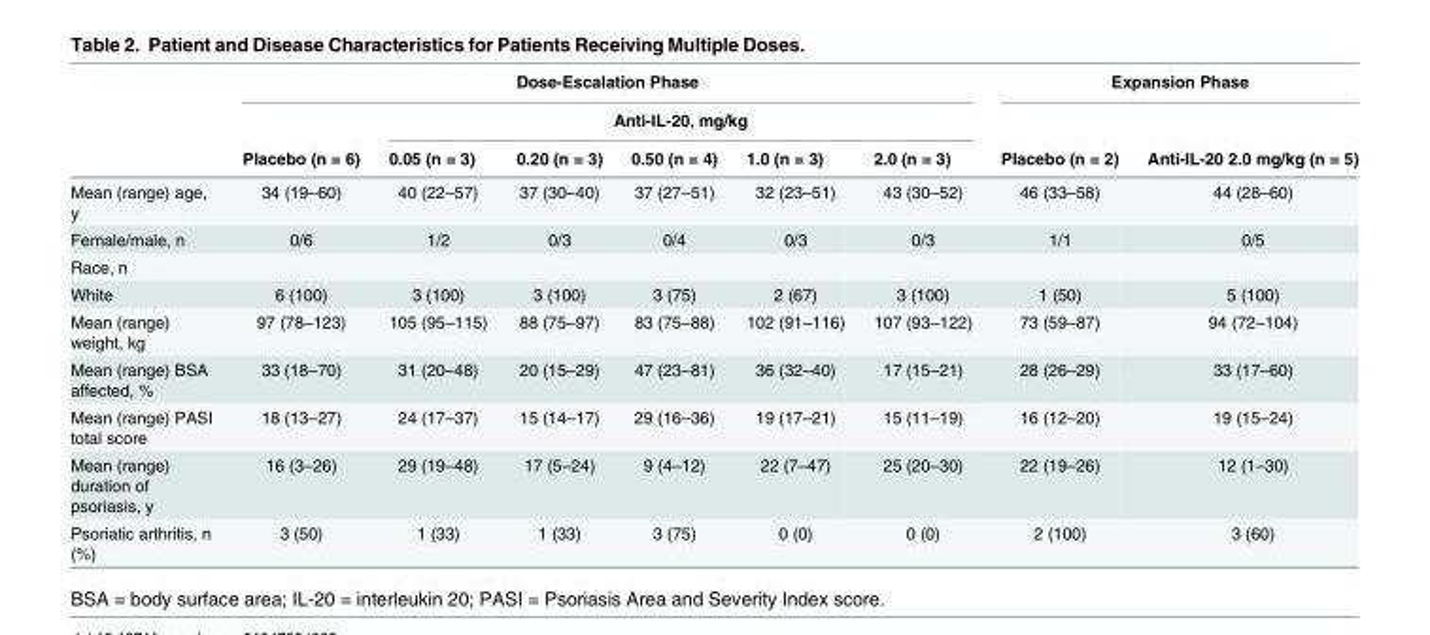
<table><thead><tr><td rowspan="3"></td><td colspan="6">Dose-Escalation Phase</td><td colspan="2">Expansion Phase</td></tr><tr><td rowspan="2">Placebo (n = 6)</td><td colspan="5">Anti-IL-20, mg/kg</td><td rowspan="2">Placebo (n = 2)</td><td rowspan="2">Anti-IL-20 2.0 mg/kg (n = 5)</td></tr><tr><td>0.05 (n = 3)</td><td>0.20 (n = 3)</td><td>0.50 (n = 4)</td><td>1.0 (n = 3)</td><td>2.0 (n = 3)</td></tr></thead><tbody><tr><td>Mean (range) age, y</td><td>34 (19–60)</td><td>40 (22–57)</td><td>37 (30–40)</td><td>37 (27–51)</td><td>32 (23–51)</td><td>43 (30–52)</td><td>46 (33–58)</td><td>44 (28–60)</td></tr><tr><td>Female/male, n</td><td>0/6</td><td>1/2</td><td>0/3</td><td>0/4</td><td>0/3</td><td>0/3</td><td>1/1</td><td>0/5</td></tr><tr><td colspan="9">Race, n</td></tr><tr><td>White</td><td>6 (100)</td><td>3 (100)</td><td>3 (100)</td><td>3 (75)</td><td>2 (67)</td><td>3 (100)</td><td>1 (50)</td><td>5 (100)</td></tr><tr><td>Mean (range) weight, kg</td><td>97 (78–123)</td><td>105 (95–115)</td><td>88 (75–97)</td><td>83 (75–88)</td><td>102 (91–116)</td><td>107 (93–122)</td><td>73 (59–87)</td><td>94 (72–104)</td></tr><tr><td>Mean (range) BSA affected, %</td><td>33 (18–70)</td><td>31 (20–48)</td><td>20 (15–29)</td><td>47 (23–81)</td><td>36 (32–40)</td><td>17 (15–21)</td><td>28 (26–29)</td><td>33 (17–60)</td></tr><tr><td>Mean (range) PASI total score</td><td>18 (13–27)</td><td>24 (17–37)</td><td>15 (14–17)</td><td>29 (16–36)</td><td>19 (17–21)</td><td>15 (11–19)</td><td>16 (12–20)</td><td>19 (15–24)</td></tr><tr><td>Mean (range) duration of psoriasis, y</td><td>16 (3–26)</td><td>29 (19–48)</td><td>17 (5–24)</td><td>9 (4–12)</td><td>22 (7–47)</td><td>25 (20–30)</td><td>22 (19–26)</td><td>12 (1–30)</td></tr><tr><td>Psoriatic arthritis, n (%)</td><td>3 (50)</td><td>1 (33)</td><td>1 (33)</td><td>3 (75)</td><td>0 (0)</td><td>0 (0)</td><td>2 (100)</td><td>3 (60)</td></tr></tbody></table>